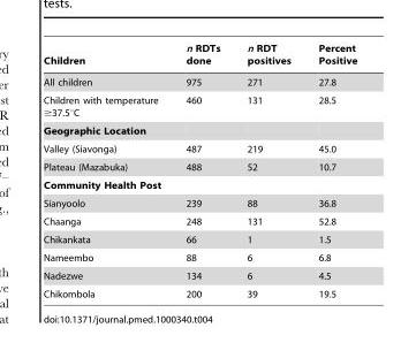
<table><thead><tr><td>Children</td><td>n RDTs done</td><td>n RDT positives</td><td>Percent Positive</td></tr></thead><tbody><tr><td>All children</td><td>975</td><td>271</td><td>27.8</td></tr><tr><td>Children with temperature ≥37.5°C</td><td>460</td><td>131</td><td>28.5</td></tr><tr><td colspan="4">Geographic Location</td></tr><tr><td>Valley (Siavonga)</td><td>487</td><td>219</td><td>45.0</td></tr><tr><td>Plateau (Mazabuka)</td><td>488</td><td>52</td><td>10.7</td></tr><tr><td colspan="4">Community Health Post</td></tr><tr><td>Sianyoolo</td><td>239</td><td>88</td><td>36.8</td></tr><tr><td>Chaanga</td><td>248</td><td>131</td><td>52.8</td></tr><tr><td>Chikankata</td><td>66</td><td>1</td><td>1.5</td></tr><tr><td>Nameembo</td><td>88</td><td>6</td><td>6.8</td></tr><tr><td>Nadezwe</td><td>134</td><td>6</td><td>4.5</td></tr><tr><td>Chikombola</td><td>200</td><td>39</td><td>19.5</td></tr></tbody></table>